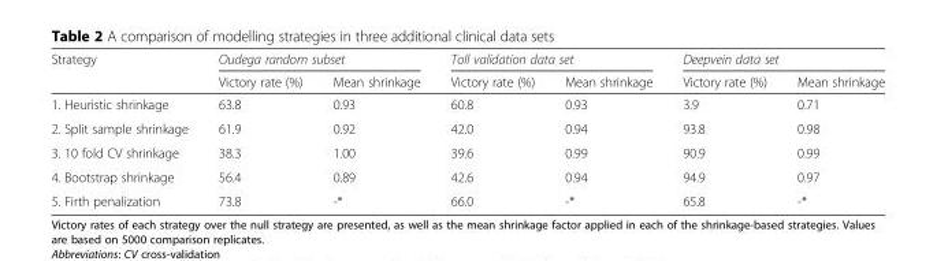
<table><thead><tr><td rowspan="2">Strategy</td><td colspan="2">Oudega random subset</td><td colspan="2">Toll validation data set</td><td colspan="2">Deepvein data set</td></tr><tr><td>Victory rate (%)</td><td>Mean shrinkage</td><td>Victory rate (%)</td><td>Mean shrinkage</td><td>Victory rate (%)</td><td>Mean shrinkage</td></tr></thead><tbody><tr><td>1. Heuristic shrinkage</td><td>63.8</td><td>0.93</td><td>60.8</td><td>0.93</td><td>3.9</td><td>0.71</td></tr><tr><td>2. Split sample shrinkage</td><td>61.9</td><td>0.92</td><td>42.0</td><td>0.94</td><td>93.8</td><td>0.98</td></tr><tr><td>3. 10 fold CV shrinkage</td><td>38.3</td><td>1.00</td><td>39.6</td><td>0.99</td><td>90.9</td><td>0.99</td></tr><tr><td>4. Bootstrap shrinkage</td><td>56.4</td><td>0.89</td><td>42.6</td><td>0.94</td><td>94.9</td><td>0.97</td></tr><tr><td>5. Firth penalization</td><td>73.8</td><td>-*</td><td>66.0</td><td>-*</td><td>65.8</td><td>-*</td></tr></tbody></table>